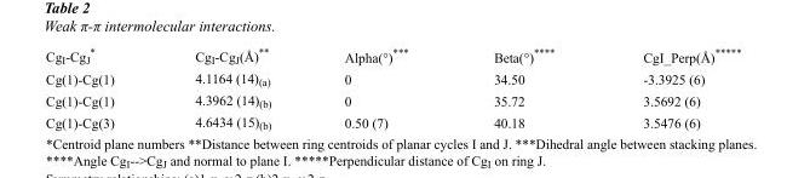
<table><tbody><tr><td>Cg<sub>I</sub>-Cg<sub>J</sub> *</td><td>Cg<sub>I</sub>-Cg<sub>J</sub>(Å)**</td><td>Alpha(°)***</td><td>Beta(°)****</td><td>CgI_Perp(Å)*****</td></tr><tr><td>Cg(1)-Cg(1)</td><td>4.1164 (14)<sub>(a)</sub></td><td>0</td><td>34.50</td><td>-3.3925 (6)</td></tr><tr><td>Cg(1)-Cg(1)</td><td>4.3962 (14)<sub>(b)</sub></td><td>0</td><td>35.72</td><td>3.5692 (6)</td></tr><tr><td>Cg(1)-Cg(3)</td><td>4.6434 (15)<sub>(b)</sub></td><td>0.50 (7)</td><td>40.18</td><td>3.5476 (6)</td></tr></tbody></table>